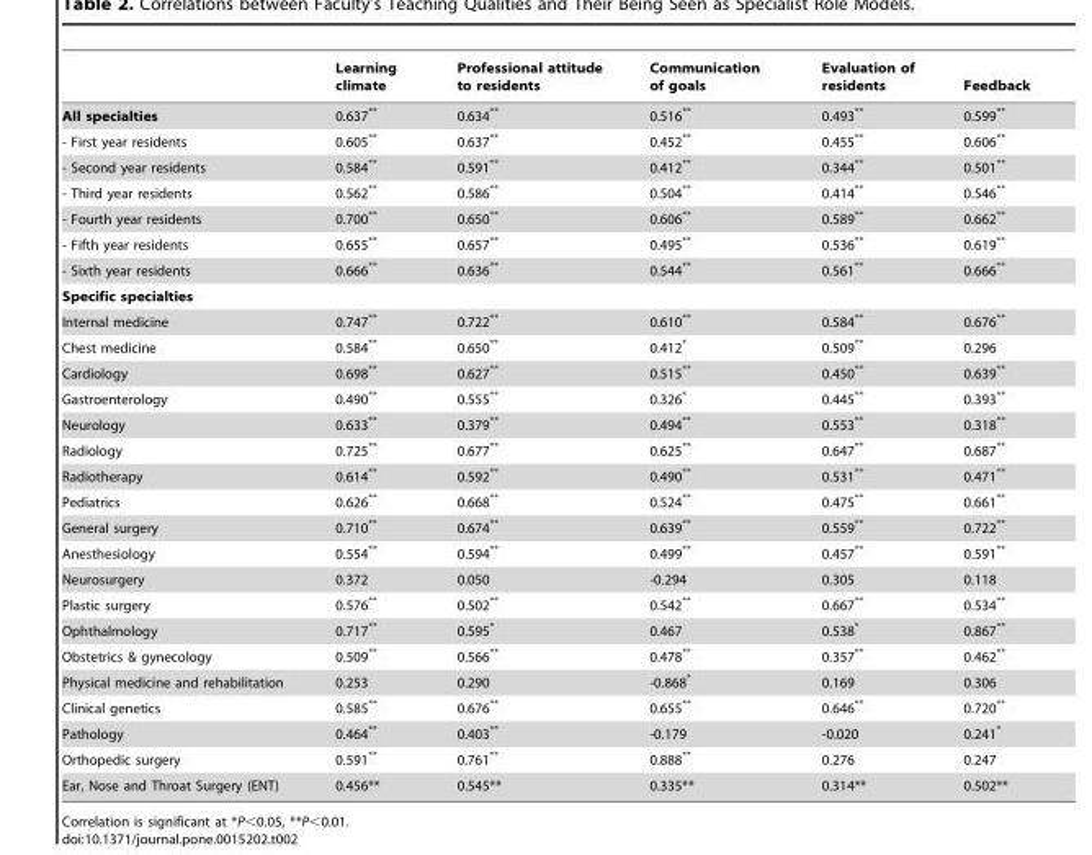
<table><thead><tr><td></td><td>Learning climate</td><td>Professional attitude to residents</td><td>Communication of goals</td><td>Evaluation of residents</td><td>Feedback</td></tr></thead><tbody><tr><td>All specialties</td><td>0.637**</td><td>0.634**</td><td>0.516**</td><td>0.493**</td><td>0.599**</td></tr><tr><td>- First year residents</td><td>0.605**</td><td>0.637**</td><td>0.452**</td><td>0.455**</td><td>0.606**</td></tr><tr><td>- Second year residents</td><td>0.584**</td><td>0.591**</td><td>0.412**</td><td>0.344**</td><td>0.501**</td></tr><tr><td>- Third year residents</td><td>0.562**</td><td>0.586**</td><td>0.504**</td><td>0.414**</td><td>0.546**</td></tr><tr><td>- Fourth year residents</td><td>0.700**</td><td>0.650**</td><td>0.606**</td><td>0.589**</td><td>0.662**</td></tr><tr><td>- Fifth year residents</td><td>0.655**</td><td>0.657**</td><td>0.495**</td><td>0.536**</td><td>0.619**</td></tr><tr><td>- Sixth year residents</td><td>0.666**</td><td>0.636**</td><td>0.544**</td><td>0.561**</td><td>0.666**</td></tr><tr><td colspan="6">Specific specialties</td></tr><tr><td>Internal medicine</td><td>0.747**</td><td>0.722**</td><td>0.610**</td><td>0.584**</td><td>0.676**</td></tr><tr><td>Chest medicine</td><td>0.584**</td><td>0.650**</td><td>0.412*</td><td>0.509**</td><td>0.296</td></tr><tr><td>Cardiology</td><td>0.698**</td><td>0.627**</td><td>0.515**</td><td>0.450**</td><td>0.639**</td></tr><tr><td>Gastroenterology</td><td>0.490**</td><td>0.555**</td><td>0.326*</td><td>0.445**</td><td>0.393**</td></tr><tr><td>Neurology</td><td>0.633**</td><td>0.379**</td><td>0.494**</td><td>0.553**</td><td>0.318**</td></tr><tr><td>Radiology</td><td>0.725**</td><td>0.677**</td><td>0.625**</td><td>0.647**</td><td>0.687**</td></tr><tr><td>Radiotherapy</td><td>0.614**</td><td>0.592**</td><td>0.490**</td><td>0.531**</td><td>0.471**</td></tr><tr><td>Pediatrics</td><td>0.626**</td><td>0.668**</td><td>0.524**</td><td>0.475**</td><td>0.661**</td></tr><tr><td>General surgery</td><td>0.710**</td><td>0.674**</td><td>0.639**</td><td>0.559**</td><td>0.722**</td></tr><tr><td>Anesthesiology</td><td>0.554**</td><td>0.594**</td><td>0.499**</td><td>0.457**</td><td>0.591**</td></tr><tr><td>Neurosurgery</td><td>0.372</td><td>0.050</td><td>-0.294</td><td>0.305</td><td>0.118</td></tr><tr><td>Plastic surgery</td><td>0.576**</td><td>0.502**</td><td>0.542**</td><td>0.667**</td><td>0.534**</td></tr><tr><td>Ophthalmology</td><td>0.717**</td><td>0.595*</td><td>0.467</td><td>0.538*</td><td>0.867**</td></tr><tr><td>Obstetrics &amp; gynecology</td><td>0.509**</td><td>0.566**</td><td>0.478**</td><td>0.357**</td><td>0.462**</td></tr><tr><td>Physical medicine and rehabilitation</td><td>0.253</td><td>0.290</td><td>-0.868*</td><td>0.169</td><td>0.306</td></tr><tr><td>Clinical genetics</td><td>0.585**</td><td>0.676**</td><td>0.655**</td><td>0.646**</td><td>0.720**</td></tr><tr><td>Pathology</td><td>0.464**</td><td>0.403**</td><td>-0.179</td><td>-0.020</td><td>0.241*</td></tr><tr><td>Orthopedic surgery</td><td>0.591**</td><td>0.761**</td><td>0.888**</td><td>0.276</td><td>0.247</td></tr><tr><td>Ear, Nose and Throat Surgery (ENT)</td><td>0.456**</td><td>0.545**</td><td>0.335**</td><td>0.314**</td><td>0.502**</td></tr></tbody></table>